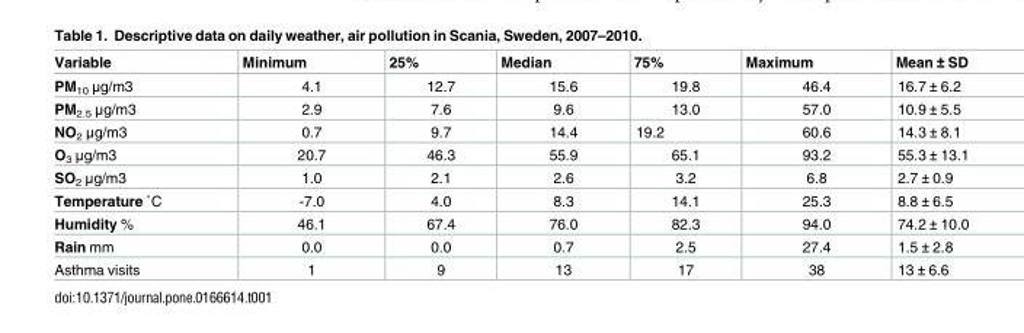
<table><thead><tr><td>Variable</td><td>Minimum</td><td>25%</td><td>Median</td><td>75%</td><td>Maximum</td><td>Mean ± SD</td></tr></thead><tbody><tr><td>PM<sub>10</sub> μg/m3</td><td>4.1</td><td>12.7</td><td>15.6</td><td>19.8</td><td>46.4</td><td>16.7 ± 6.2</td></tr><tr><td>PM<sub>2.5</sub> μg/m3</td><td>2.9</td><td>7.6</td><td>9.6</td><td>13.0</td><td>57.0</td><td>10.9 ± 5.5</td></tr><tr><td>NO<sub>2</sub> μg/m3</td><td>0.7</td><td>9.7</td><td>14.4</td><td>19.2</td><td>60.6</td><td>14.3 ± 8.1</td></tr><tr><td>O<sub>3</sub> μg/m3</td><td>20.7</td><td>46.3</td><td>55.9</td><td>65.1</td><td>93.2</td><td>55.3 ± 13.1</td></tr><tr><td>SO<sub>2</sub> μg/m3</td><td>1.0</td><td>2.1</td><td>2.6</td><td>3.2</td><td>6.8</td><td>2.7 ± 0.9</td></tr><tr><td>Temperature ˚C</td><td>-7.0</td><td>4.0</td><td>8.3</td><td>14.1</td><td>25.3</td><td>8.8 ± 6.5</td></tr><tr><td>Humidity %</td><td>46.1</td><td>67.4</td><td>76.0</td><td>82.3</td><td>94.0</td><td>74.2 ± 10.0</td></tr><tr><td>Rain mm</td><td>0.0</td><td>0.0</td><td>0.7</td><td>2.5</td><td>27.4</td><td>1.5 ± 2.8</td></tr><tr><td>Asthma visits</td><td>1</td><td>9</td><td>13</td><td>17</td><td>38</td><td>13 ± 6.6</td></tr></tbody></table>